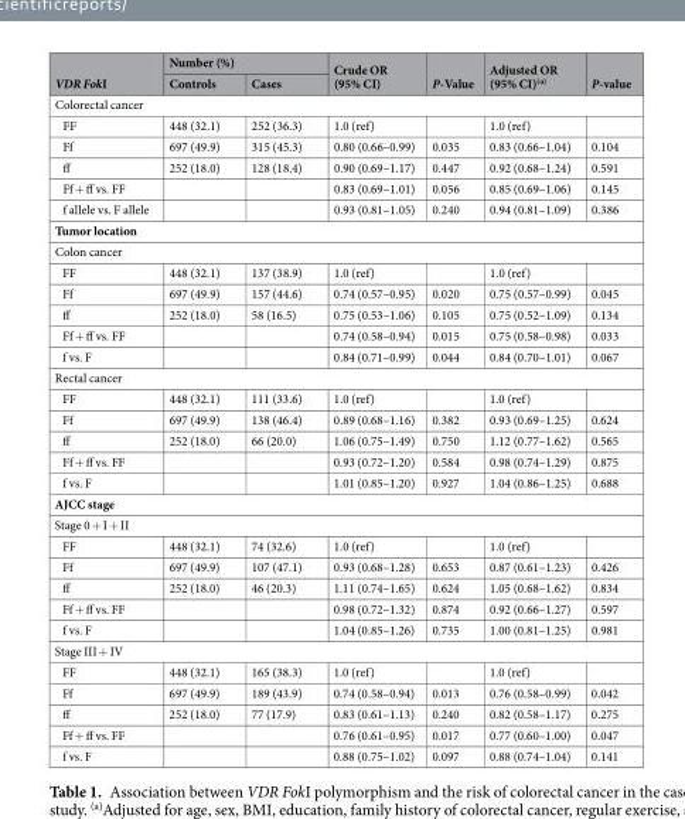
<table><thead><tr><td rowspan="2">VDR FokI</td><td colspan="2">Number (%)</td><td rowspan="2">Crude OR (95% CI)</td><td rowspan="2">P-Value</td><td rowspan="2">Adjusted OR (95% CI)<sup>(a)</sup></td><td rowspan="2">P-value</td></tr><tr><td>Controls</td><td>Cases</td></tr></thead><tbody><tr><td colspan="7">Colorectal cancer</td></tr><tr><td>FF</td><td>448 (32.1)</td><td>252 (36.3)</td><td>1.0 (ref)</td><td></td><td>1.0 (ref)</td><td></td></tr><tr><td>Ff</td><td>697 (49.9)</td><td>315 (45.3)</td><td>0.80 (0.66–0.99)</td><td>0.035</td><td>0.83 (0.66–1.04)</td><td>0.104</td></tr><tr><td>ff</td><td>252 (18.0)</td><td>128 (18.4)</td><td>0.90 (0.69–1.17)</td><td>0.447</td><td>0.92 (0.68–1.24)</td><td>0.591</td></tr><tr><td>Ff + ff vs. FF</td><td></td><td></td><td>0.83 (0.69–1.01)</td><td>0.056</td><td>0.85 (0.69–1.06)</td><td>0.145</td></tr><tr><td>f allele vs. F allele</td><td></td><td></td><td>0.93 (0.81–1.05)</td><td>0.240</td><td>0.94 (0.81–1.09)</td><td>0.386</td></tr><tr><td colspan="7">Tumor location</td></tr><tr><td colspan="7">Colon cancer</td></tr><tr><td>FF</td><td>448 (32.1)</td><td>137 (38.9)</td><td>1.0 (ref)</td><td></td><td>1.0 (ref)</td><td></td></tr><tr><td>Ff</td><td>697 (49.9)</td><td>157 (44.6)</td><td>0.74 (0.57–0.95)</td><td>0.020</td><td>0.75 (0.57–0.99)</td><td>0.045</td></tr><tr><td>ff</td><td>252 (18.0)</td><td>58 (16.5)</td><td>0.75 (0.53–1.06)</td><td>0.105</td><td>0.75 (0.52–1.09)</td><td>0.134</td></tr><tr><td>Ff + ff vs. FF</td><td></td><td></td><td>0.74 (0.58–0.94)</td><td>0.015</td><td>0.75 (0.58–0.98)</td><td>0.033</td></tr><tr><td>f vs. F</td><td></td><td></td><td>0.84 (0.71–0.99)</td><td>0.044</td><td>0.84 (0.70–1.01)</td><td>0.067</td></tr><tr><td colspan="7">Rectal cancer</td></tr><tr><td>FF</td><td>448 (32.1)</td><td>111 (33.6)</td><td>1.0 (ref)</td><td></td><td>1.0 (ref)</td><td></td></tr><tr><td>Ff</td><td>697 (49.9)</td><td>138 (46.4)</td><td>0.89 (0.68–1.16)</td><td>0.382</td><td>0.93 (0.69–1.25)</td><td>0.624</td></tr><tr><td>ff</td><td>252 (18.0)</td><td>66 (20.0)</td><td>1.06 (0.75–1.49)</td><td>0.750</td><td>1.12 (0.77–1.62)</td><td>0.565</td></tr><tr><td>Ff + ff vs. FF</td><td></td><td></td><td>0.93 (0.72–1.20)</td><td>0.584</td><td>0.98 (0.74–1.29)</td><td>0.875</td></tr><tr><td>f vs. F</td><td></td><td></td><td>1.01 (0.85–1.20)</td><td>0.927</td><td>1.04 (0.86–1.25)</td><td>0.688</td></tr><tr><td colspan="7">AJCC stage</td></tr><tr><td colspan="7">Stage 0 + I + II</td></tr><tr><td>FF</td><td>448 (32.1)</td><td>74 (32.6)</td><td>1.0 (ref)</td><td></td><td>1.0 (ref)</td><td></td></tr><tr><td>Ff</td><td>697 (49.9)</td><td>107 (47.1)</td><td>0.93 (0.68–1.28)</td><td>0.653</td><td>0.87 (0.61–1.23)</td><td>0.426</td></tr><tr><td>ff</td><td>252 (18.0)</td><td>46 (20.3)</td><td>1.11 (0.74–1.65)</td><td>0.624</td><td>1.05 (0.68–1.62)</td><td>0.834</td></tr><tr><td>Ff + ff vs. FF</td><td></td><td></td><td>0.98 (0.72–1.32)</td><td>0.874</td><td>0.92 (0.66–1.27)</td><td>0.597</td></tr><tr><td>f vs. F</td><td></td><td></td><td>1.04 (0.85–1.26)</td><td>0.735</td><td>1.00 (0.81–1.25)</td><td>0.981</td></tr><tr><td colspan="7">Stage III + IV</td></tr><tr><td>FF</td><td>448 (32.1)</td><td>165 (38.3)</td><td>1.0 (ref)</td><td></td><td>1.0 (ref)</td><td></td></tr><tr><td>Ff</td><td>697 (49.9)</td><td>189 (43.9)</td><td>0.74 (0.58–0.94)</td><td>0.013</td><td>0.76 (0.58–0.99)</td><td>0.042</td></tr><tr><td>ff</td><td>252 (18.0)</td><td>77 (17.9)</td><td>0.83 (0.61–1.13)</td><td>0.240</td><td>0.82 (0.58–1.17)</td><td>0.275</td></tr><tr><td>Ff + ff vs. FF</td><td></td><td></td><td>0.76 (0.61–0.95)</td><td>0.017</td><td>0.77 (0.60–1.00)</td><td>0.047</td></tr><tr><td>f vs. F</td><td></td><td></td><td>0.88 (0.75–1.02)</td><td>0.097</td><td>0.88 (0.74–1.04)</td><td>0.141</td></tr></tbody></table>